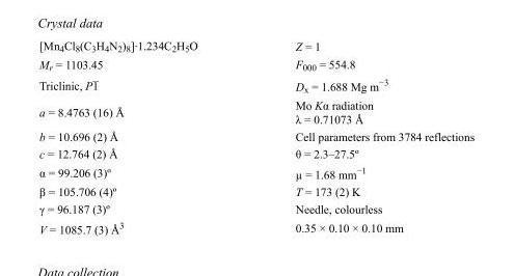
<table><tbody><tr><td>[Mn<sub>4</sub>Cl<sub>8</sub>(C<sub>3</sub>H<sub>4</sub>N<sub>2</sub>)<sub>8</sub>]·1.234C<sub>2</sub>H<sub>5</sub>O</td><td>Z = 1</td></tr><tr><td>M<sub>r</sub> = 1103.45</td><td>F000 = 554.8</td></tr><tr><td>Triclinic, P1</td><td>D<sub>x</sub> = 1.688 Mg m<sup>−3</sup></td></tr><tr><td>a = 8.4763 (16) Å</td><td>Mo Kα radiation λ = 0.71073 Å</td></tr><tr><td>b = 10.696 (2) Å</td><td>Cell parameters from 3784 reflections</td></tr><tr><td>c = 12.764 (2) Å</td><td>θ = 2.3–27.5º</td></tr><tr><td>α = 99.206 (3)º</td><td>µ = 1.68 mm<sup>−1</sup></td></tr><tr><td>β = 105.706 (4)º</td><td>T = 173 (2) K</td></tr><tr><td>γ = 96.187 (3)º</td><td>Needle, colourless</td></tr><tr><td>V = 1085.7 (3) Å<sup>3</sup></td><td>0.35 × 0.10 × 0.10 mm</td></tr></tbody></table>